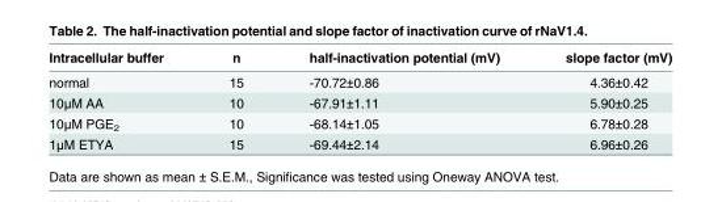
<table><thead><tr><td>Intracellular buffer</td><td>n</td><td>half-inactivation potential (mV)</td><td>slope factor (mV)</td></tr></thead><tbody><tr><td>normal</td><td>15</td><td>-70.72±0.86</td><td>4.36±0.42</td></tr><tr><td>10μM AA</td><td>10</td><td>-67.91±1.11</td><td>5.90±0.25</td></tr><tr><td>10μM PGE<sub>2</sub></td><td>10</td><td>-68.14±1.05</td><td>6.78±0.28</td></tr><tr><td>1μM ETYA</td><td>15</td><td>-69.44±2.14</td><td>6.96±0.26</td></tr></tbody></table>